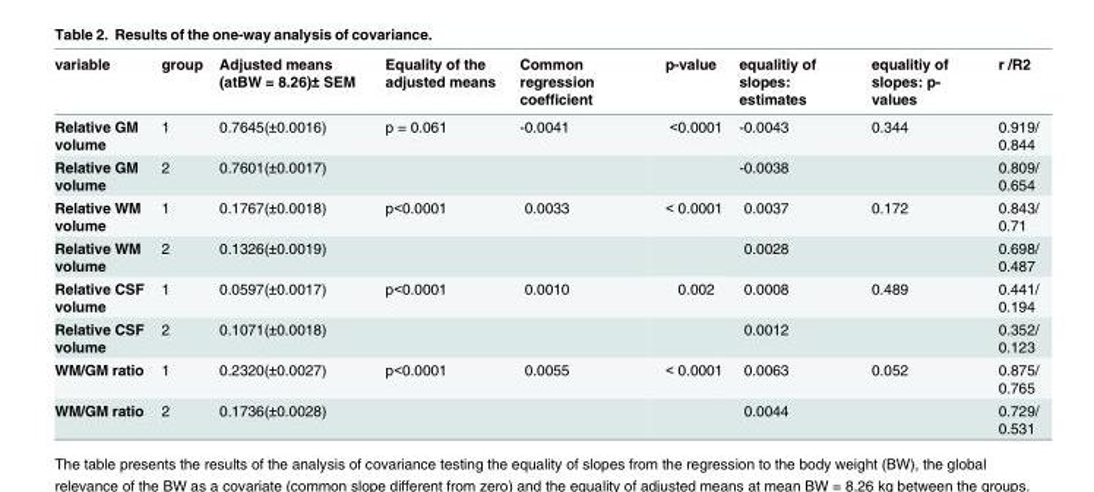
<table><thead><tr><td>variable</td><td>group</td><td>Adjusted means (atBW = 8.26)± SEM</td><td>Equality of the adjusted means</td><td>Common regression coefficient</td><td>p-value</td><td>equalitiy of slopes: estimates</td><td>equalitiy of slopes: p- values</td><td>r /R2</td></tr></thead><tbody><tr><td>Relative GM volume</td><td>1</td><td>0.7645(±0.0016)</td><td>p = 0.061</td><td>-0.0041</td><td>&lt;0.0001</td><td>-0.0043</td><td>0.344</td><td>0.919/ 0.844</td></tr><tr><td>Relative GM volume</td><td>2</td><td>0.7601(±0.0017)</td><td></td><td></td><td></td><td>-0.0038</td><td></td><td>0.809/ 0.654</td></tr><tr><td>Relative WM volume</td><td>1</td><td>0.1767(±0.0018)</td><td>p&lt;0.0001</td><td>0.0033</td><td>&lt; 0.0001</td><td>0.0037</td><td>0.172</td><td>0.843/ 0.71</td></tr><tr><td>Relative WM volume</td><td>2</td><td>0.1326(±0.0019)</td><td></td><td></td><td></td><td>0.0028</td><td></td><td>0.698/ 0.487</td></tr><tr><td>Relative CSF volume</td><td>1</td><td>0.0597(±0.0017)</td><td>p&lt;0.0001</td><td>0.0010</td><td>0.002</td><td>0.0008</td><td>0.489</td><td>0.441/ 0.194</td></tr><tr><td>Relative CSF volume</td><td>2</td><td>0.1071(±0.0018)</td><td></td><td></td><td></td><td>0.0012</td><td></td><td>0.352/ 0.123</td></tr><tr><td>WM/GM ratio</td><td>1</td><td>0.2320(±0.0027)</td><td>p&lt;0.0001</td><td>0.0055</td><td>&lt; 0.0001</td><td>0.0063</td><td>0.052</td><td>0.875/ 0.765</td></tr><tr><td>WM/GM ratio</td><td>2</td><td>0.1736(±0.0028)</td><td></td><td></td><td></td><td>0.0044</td><td></td><td>0.729/ 0.531</td></tr></tbody></table>